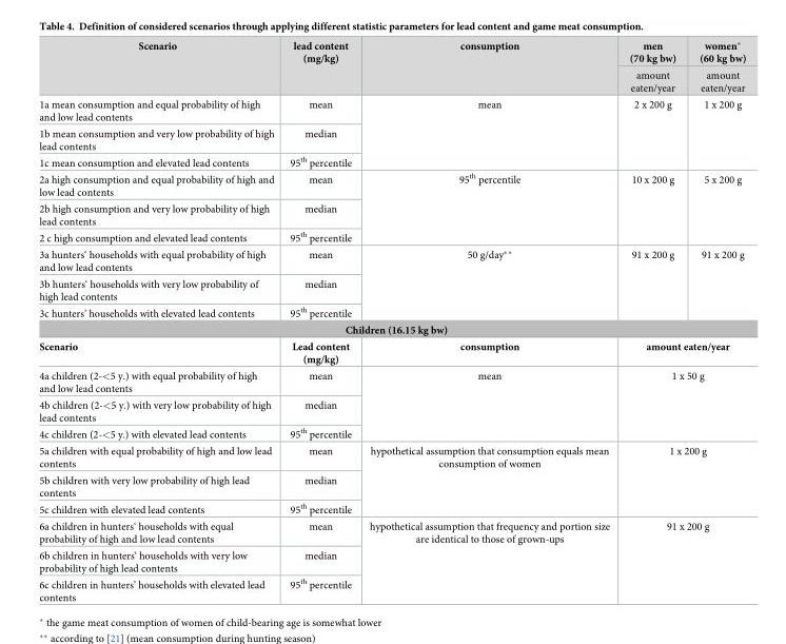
<table><tbody><tr><td rowspan="2">Scenario</td><td rowspan="2">lead content (mg/kg)</td><td rowspan="2">consumption</td><td>men (70 kg bw)</td><td>women* (60 kg bw)</td></tr><tr><td>amount eaten/year</td><td>amount eaten/year</td></tr><tr><td>1a mean consumption and equal probability of high and low lead contents</td><td>mean</td><td rowspan="3">mean</td><td rowspan="3">2 x 200 g</td><td rowspan="3">1 x 200 g</td></tr><tr><td>1b mean consumption and very low probability of high lead contents</td><td>median</td></tr><tr><td>1c mean consumption and elevated lead contents</td><td>95<sup>th</sup> percentile</td></tr><tr><td>2a high consumption and equal probability of high and low lead contents</td><td>mean</td><td rowspan="3">95<sup>th</sup> percentile</td><td rowspan="3">10 x 200 g</td><td rowspan="3">5 x 200 g</td></tr><tr><td>2b high consumption and very low probability of high lead contents</td><td>median</td></tr><tr><td>2 c high consumption and elevated lead contents</td><td>95<sup>th</sup> percentile</td></tr><tr><td>3a hunters‘ households with equal probability of high and low lead contents</td><td>mean</td><td rowspan="3">50 g/day**</td><td rowspan="3">91 x 200 g</td><td rowspan="3">91 x 200 g</td></tr><tr><td>3b hunters‘ households with very low probability of high lead contents</td><td>median</td></tr><tr><td>3c hunters’ households with elevated lead contents</td><td>95<sup>th</sup> percentile</td></tr><tr><td colspan="5">Children (16.15 kg bw)</td></tr><tr><td>Scenario</td><td>Lead content (mg/kg)</td><td>consumption</td><td colspan="2">amount eaten/year</td></tr><tr><td>4a children (2-&lt;5 y.) with equal probability of high and low lead contents</td><td>mean</td><td rowspan="3">mean</td><td rowspan="3" colspan="2">1 x 50 g</td></tr><tr><td>4b children (2-&lt;5 y.) with very low probability of high lead contents</td><td>median</td></tr><tr><td>4c children (2-&lt;5 y.) with elevated lead contents</td><td>95<sup>th</sup> percentile</td></tr><tr><td>5a children with equal probability of high and low lead contents</td><td>mean</td><td rowspan="3">hypothetical assumption that consumption equals mean consumption of women</td><td rowspan="3" colspan="2">1 x 200 g</td></tr><tr><td>5b children with very low probability of high lead contents</td><td>median</td></tr><tr><td>5c children with elevated lead contents</td><td>95<sup>th</sup> percentile</td></tr><tr><td>6a children in hunters‘ households with equal probability of high and low lead contents</td><td>mean</td><td rowspan="3">hypothetical assumption that frequency and portion size are identical to those of grown-ups</td><td rowspan="3" colspan="2">91 x 200 g</td></tr><tr><td>6b children in hunters‘ households with very low probability of high lead contents</td><td>median</td></tr><tr><td>6c children in hunters’ households with elevated lead contents</td><td>95<sup>th</sup> percentile</td></tr></tbody></table>